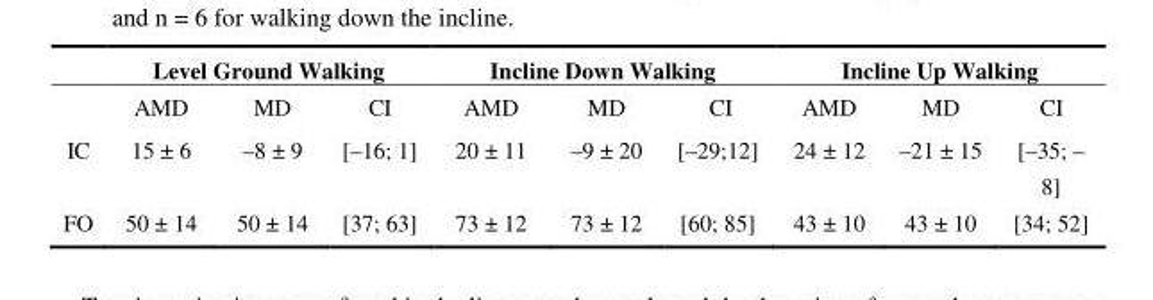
<table><thead><tr><td rowspan="2"></td><td colspan="3">Level Ground Walking</td><td colspan="3">Incline Down Walking</td><td colspan="3">Incline Up Walking</td></tr><tr><td>AMD</td><td>MD</td><td>CI</td><td>AMD</td><td>MD</td><td>CI</td><td>AMD</td><td>MD</td><td>CI</td></tr></thead><tbody><tr><td>IC</td><td>15 ± 6</td><td>–8 ± 9</td><td>[–16; 1]</td><td>20 ± 11</td><td>–9 ± 20</td><td>[–29;12]</td><td>24 ± 12</td><td>–21 ± 15</td><td>[–35; – 8]</td></tr><tr><td>FO</td><td>50 ± 14</td><td>50 ± 14</td><td>[37; 63]</td><td>73 ± 12</td><td>73 ± 12</td><td>[60; 85]</td><td>43 ± 10</td><td>43 ± 10</td><td>[34; 52]</td></tr></tbody></table>